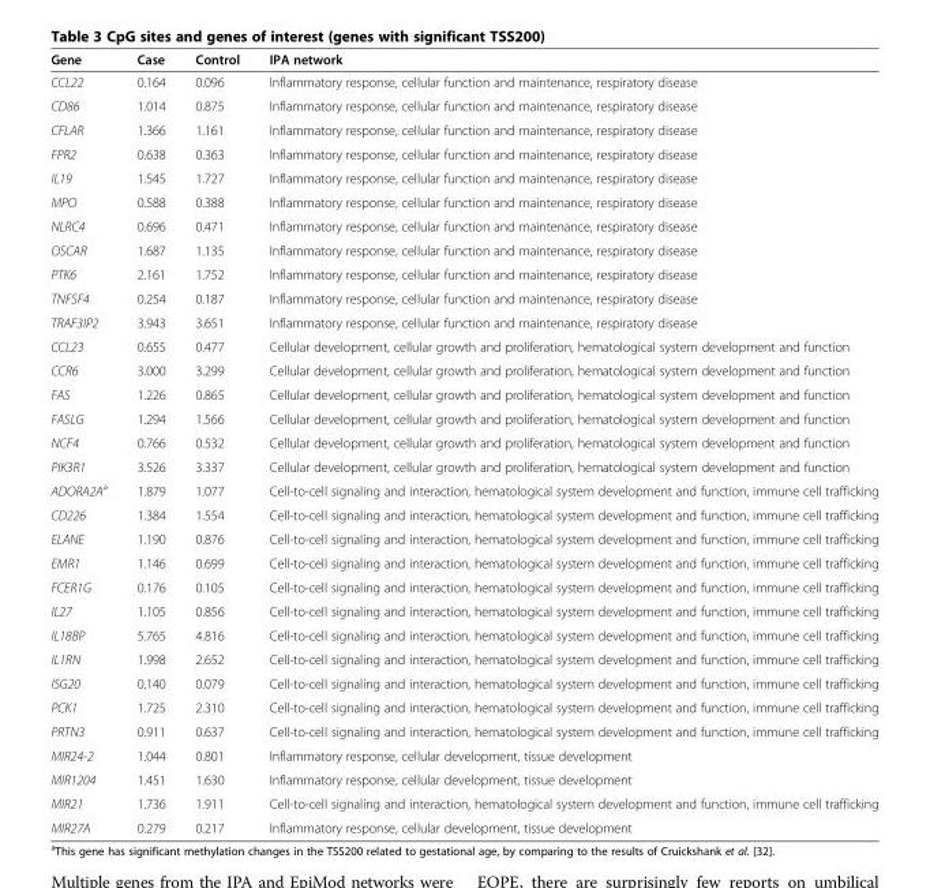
<table><thead><tr><td>Gene</td><td>Case</td><td>Control</td><td>IPA network</td></tr></thead><tbody><tr><td>CCL22</td><td>0.164</td><td>0.096</td><td>Inflammatory response, cellular function and maintenance, respiratory disease</td></tr><tr><td>CD86</td><td>1.014</td><td>0.875</td><td>Inflammatory response, cellular function and maintenance, respiratory disease</td></tr><tr><td>CFLAR</td><td>1.366</td><td>1.161</td><td>Inflammatory response, cellular function and maintenance, respiratory disease</td></tr><tr><td>FPR2</td><td>0.638</td><td>0.363</td><td>Inflammatory response, cellular function and maintenance, respiratory disease</td></tr><tr><td>IL19</td><td>1.545</td><td>1.727</td><td>Inflammatory response, cellular function and maintenance, respiratory disease</td></tr><tr><td>MPO</td><td>0.588</td><td>0.388</td><td>Inflammatory response, cellular function and maintenance, respiratory disease</td></tr><tr><td>NLRC4</td><td>0.696</td><td>0.471</td><td>Inflammatory response, cellular function and maintenance, respiratory disease</td></tr><tr><td>OSCAR</td><td>1.687</td><td>1.135</td><td>Inflammatory response, cellular function and maintenance, respiratory disease</td></tr><tr><td>PTK6</td><td>2.161</td><td>1.752</td><td>Inflammatory response, cellular function and maintenance, respiratory disease</td></tr><tr><td>TNFSF4</td><td>0.254</td><td>0.187</td><td>Inflammatory response, cellular function and maintenance, respiratory disease</td></tr><tr><td>TRAF3IP2</td><td>3.943</td><td>3.651</td><td>Inflammatory response, cellular function and maintenance, respiratory disease</td></tr><tr><td>CCL23</td><td>0.655</td><td>0.477</td><td>Cellular development, cellular growth and proliferation, hematological system development and function</td></tr><tr><td>CCR6</td><td>3.000</td><td>3.299</td><td>Cellular development, cellular growth and proliferation, hematological system development and function</td></tr><tr><td>FAS</td><td>1.226</td><td>0.865</td><td>Cellular development, cellular growth and proliferation, hematological system development and function</td></tr><tr><td>FASLG</td><td>1.294</td><td>1.566</td><td>Cellular development, cellular growth and proliferation, hematological system development and function</td></tr><tr><td>NCF4</td><td>0.766</td><td>0.532</td><td>Cellular development, cellular growth and proliferation, hematological system development and function</td></tr><tr><td>PIK3R1</td><td>3.526</td><td>3.337</td><td>Cellular development, cellular growth and proliferation, hematological system development and function</td></tr><tr><td>ADORA2A<sup>a</sup></td><td>1.879</td><td>1.077</td><td>Cell-to-cell signaling and interaction, hematological system development and function, immune cell trafficking</td></tr><tr><td>CD226</td><td>1.384</td><td>1.554</td><td>Cell-to-cell signaling and interaction, hematological system development and function, immune cell trafficking</td></tr><tr><td>ELANE</td><td>1.190</td><td>0.876</td><td>Cell-to-cell signaling and interaction, hematological system development and function, immune cell trafficking</td></tr><tr><td>EMR1</td><td>1.146</td><td>0.699</td><td>Cell-to-cell signaling and interaction, hematological system development and function, immune cell trafficking</td></tr><tr><td>FCER1G</td><td>0.176</td><td>0.105</td><td>Cell-to-cell signaling and interaction, hematological system development and function, immune cell trafficking</td></tr><tr><td>IL27</td><td>1.105</td><td>0.856</td><td>Cell-to-cell signaling and interaction, hematological system development and function, immune cell trafficking</td></tr><tr><td>IL18BP</td><td>5.765</td><td>4.816</td><td>Cell-to-cell signaling and interaction, hematological system development and function, immune cell trafficking</td></tr><tr><td>IL1RN</td><td>1.998</td><td>2.652</td><td>Cell-to-cell signaling and interaction, hematological system development and function, immune cell trafficking</td></tr><tr><td>ISG20</td><td>0.140</td><td>0.079</td><td>Cell-to-cell signaling and interaction, hematological system development and function, immune cell trafficking</td></tr><tr><td>PCK1</td><td>1.725</td><td>2.310</td><td>Cell-to-cell signaling and interaction, hematological system development and function, immune cell trafficking</td></tr><tr><td>PRTN3</td><td>0.911</td><td>0.637</td><td>Cell-to-cell signaling and interaction, hematological system development and function, immune cell trafficking</td></tr><tr><td>MIR24-2</td><td>1.044</td><td>0.801</td><td>Inflammatory response, cellular development, tissue development</td></tr><tr><td>MIR1204</td><td>1.451</td><td>1.630</td><td>Inflammatory response, cellular development, tissue development</td></tr><tr><td>MIR21</td><td>1.736</td><td>1.911</td><td>Cell-to-cell signaling and interaction, hematological system development and function, immune cell trafficking</td></tr><tr><td>MIR27A</td><td>0.279</td><td>0.217</td><td>Inflammatory response, cellular development, tissue development</td></tr></tbody></table>